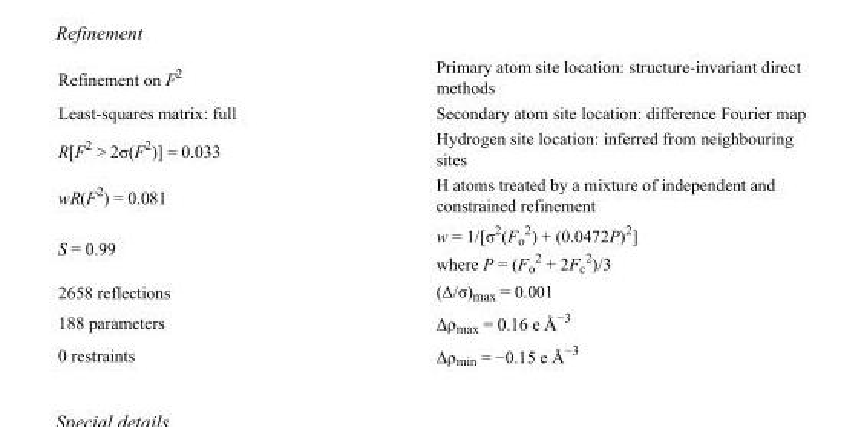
<table><tbody><tr><td>Refinement on F<sup>2</sup></td><td>Primary atom site location: structure-invariant direct methods</td></tr><tr><td>Least-squares matrix: full</td><td>Secondary atom site location: difference Fourier map</td></tr><tr><td>R[F<sup>2</sup> &gt; 2σ(F<sup>2</sup>)] = 0.033</td><td>Hydrogen site location: inferred from neighbouring sites</td></tr><tr><td>wR(F<sup>2</sup>) = 0.081</td><td>H atoms treated by a mixture of independent and constrained refinement</td></tr><tr><td>S = 0.99</td><td>w = 1/[σ<sup>2</sup>(F<sub>o</sub> <sup>2</sup>) + (0.0472P)<sup>2</sup>] where P = (F<sub>o</sub> <sup>2</sup> + 2F<sub>c</sub> <sup>2</sup>)/3</td></tr><tr><td>2658 reflections</td><td>(Δ/σ)<sub>max</sub> = 0.001</td></tr><tr><td>188 parameters</td><td>Δρ<sub>max</sub> = 0.16 e Å<sup>−3</sup></td></tr><tr><td>0 restraints</td><td>Δρ<sub>min</sub> = −0.15 e Å<sup>−3</sup></td></tr></tbody></table>